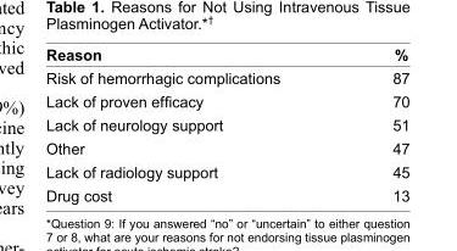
<table><thead><tr><td>Reason</td><td>%</td></tr></thead><tbody><tr><td>Risk of hemorrhagic complications</td><td>87</td></tr><tr><td>Lack of proven effi cacy</td><td>70</td></tr><tr><td>Lack of neurology support</td><td>51</td></tr><tr><td>Other</td><td>47</td></tr><tr><td>Lack of radiology support</td><td>45</td></tr><tr><td>Drug cost</td><td>13</td></tr></tbody></table>